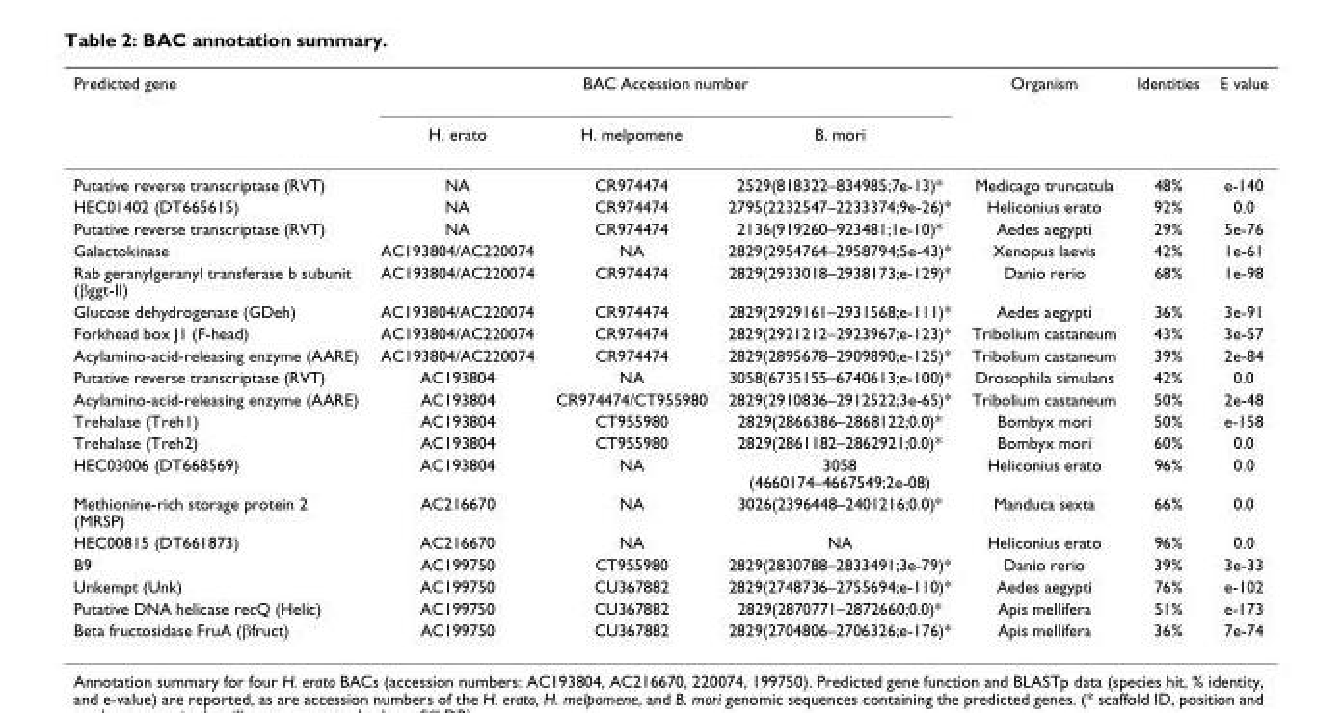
<table><thead><tr><td rowspan="2">Predicted gene</td><td colspan="3">BAC Accession number</td><td rowspan="2">Organism</td><td rowspan="2">Identities</td><td rowspan="2">E value</td></tr><tr><td>H. erato</td><td>H. melpomene</td><td>B. mori</td></tr></thead><tbody><tr><td>Putative reverse transcriptase (RVT)</td><td>NA</td><td>CR974474</td><td>2529(818322–834985;7e-13)*</td><td>Medicago truncatula</td><td>48%</td><td>e-140</td></tr><tr><td>HEC01402 (DT665615)</td><td>NA</td><td>CR974474</td><td>2795(2232547–2233374;9e-26)*</td><td>Heliconius erato</td><td>92%</td><td>0.0</td></tr><tr><td>Putative reverse transcriptase (RVT)</td><td>NA</td><td>CR974474</td><td>2136(919260–923481;1e-10)*</td><td>Aedes aegypti</td><td>29%</td><td>5e-76</td></tr><tr><td>Galactokinase</td><td>AC193804/AC220074</td><td>NA</td><td>2829(2954764–2958794;5e-43)*</td><td>Xenopus laevis</td><td>42%</td><td>1e-61</td></tr><tr><td>Rab geranylgeranyl transferase b subunit (βggt-II)</td><td>AC193804/AC220074</td><td>CR974474</td><td>2829(2933018–2938173;e-129)*</td><td>Danio rerio</td><td>68%</td><td>1e-98</td></tr><tr><td>Glucose dehydrogenase (GDeh)</td><td>AC193804/AC220074</td><td>CR974474</td><td>2829(2929161–2931568;e-111)*</td><td>Aedes aegypti</td><td>36%</td><td>3e-91</td></tr><tr><td>Forkhead box J1 (F-head)</td><td>AC193804/AC220074</td><td>CR974474</td><td>2829(2921212–2923967;e-123)*</td><td>Tribolium castaneum</td><td>43%</td><td>3e-57</td></tr><tr><td>Acylamino-acid-releasing enzyme (AARE)</td><td>AC193804/AC220074</td><td>CR974474</td><td>2829(2895678–2909890;e-125)*</td><td>Tribolium castaneum</td><td>39%</td><td>2e-84</td></tr><tr><td>Putative reverse transcriptase (RVT)</td><td>AC193804</td><td>NA</td><td>3058(6735155–6740613;e-100)*</td><td>Drosophila simulans</td><td>42%</td><td>0.0</td></tr><tr><td>Acylamino-acid-releasing enzyme (AARE)</td><td>AC193804</td><td>CR974474/CT955980</td><td>2829(2910836–2912522;3e-65)*</td><td>Tribolium castaneum</td><td>50%</td><td>2e-48</td></tr><tr><td>Trehalase (Treh1)</td><td>AC193804</td><td>CT955980</td><td>2829(2866386–2868122;0.0)*</td><td>Bombyx mori</td><td>50%</td><td>e-158</td></tr><tr><td>Trehalase (Treh2)</td><td>AC193804</td><td>CT955980</td><td>2829(2861182–2862921;0.0)*</td><td>Bombyx mori</td><td>60%</td><td>0.0</td></tr><tr><td>HEC03006 (DT668569)</td><td>AC193804</td><td>NA</td><td>3058 (4660174–4667549;2e-08)</td><td>Heliconius erato</td><td>96%</td><td>0.0</td></tr><tr><td>Methionine-rich storage protein 2 (MRSP)</td><td>AC216670</td><td>NA</td><td>3026(2396448–2401216;0.0)*</td><td>Manduca sexta</td><td>66%</td><td>0.0</td></tr><tr><td>HEC00815 (DT661873)</td><td>AC216670</td><td>NA</td><td>NA</td><td>Heliconius erato</td><td>96%</td><td>0.0</td></tr><tr><td>B9</td><td>AC199750</td><td>CT955980</td><td>2829(2830788–2833491;3e-79)*</td><td>Danio rerio</td><td>39%</td><td>3e-33</td></tr><tr><td>Unkempt (Unk)</td><td>AC199750</td><td>CU367882</td><td>2829(2748736–2755694;e-110)*</td><td>Aedes aegypti</td><td>76%</td><td>e-102</td></tr><tr><td>Putative DNA helicase recQ (Helic)</td><td>AC199750</td><td>CU367882</td><td>2829(2870771–2872660;0.0)*</td><td>Apis mellifera</td><td>51%</td><td>e-173</td></tr><tr><td>Beta fructosidase FruA (βfruct)</td><td>AC199750</td><td>CU367882</td><td>2829(2704806–2706326;e-176)*</td><td>Apis mellifera</td><td>36%</td><td>7e-74</td></tr></tbody></table>